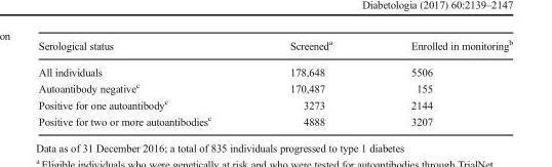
<table><thead><tr><td>Serological status</td><td>Screened<sup>a</sup></td><td>Enrolled in monitoring<sup>b</sup></td></tr></thead><tbody><tr><td>All individuals</td><td>178,648</td><td>5506</td></tr><tr><td>Autoantibody negative<sup>c</sup></td><td>170,487</td><td>155</td></tr><tr><td>Positive for one autoantibody<sup>c</sup></td><td>3273</td><td>2144</td></tr><tr><td>Positive for two or more autoantibodies<sup>c</sup></td><td>4888</td><td>3207</td></tr></tbody></table>